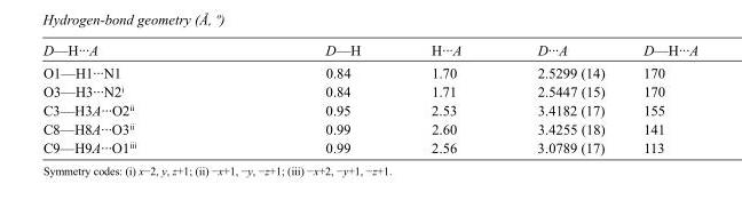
<table><tbody><tr><td>D—H···A</td><td>D—H</td><td>H···A</td><td>D···A</td><td>D—H···A</td></tr><tr><td>O1—H1···N1</td><td>0.84</td><td>1.70</td><td>2.5299 (14)</td><td>170</td></tr><tr><td>O3—H3···N2<sup>i</sup></td><td>0.84</td><td>1.71</td><td>2.5447 (15)</td><td>170</td></tr><tr><td>C3—H3A···O2<sup>ii</sup></td><td>0.95</td><td>2.53</td><td>3.4182 (17)</td><td>155</td></tr><tr><td>C8—H8A···O3<sup>ii</sup></td><td>0.99</td><td>2.60</td><td>3.4255 (18)</td><td>141</td></tr><tr><td>C9—H9A···O1<sup>iii</sup></td><td>0.99</td><td>2.56</td><td>3.0789 (17)</td><td>113</td></tr></tbody></table>